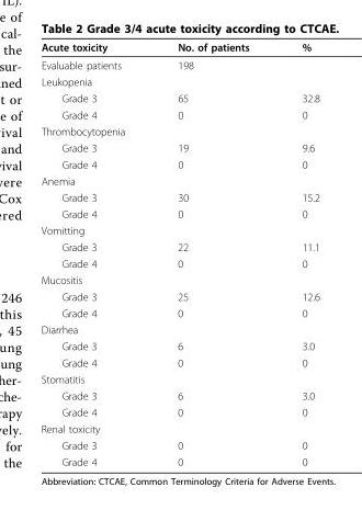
<table><thead><tr><td>Acute toxicity</td><td>No. of patients</td><td>%</td></tr></thead><tbody><tr><td>Evaluable patients</td><td>198</td><td></td></tr><tr><td colspan="3">Leukopenia</td></tr><tr><td>Grade 3</td><td>65</td><td>32.8</td></tr><tr><td>Grade 4</td><td>0</td><td>0</td></tr><tr><td colspan="3">Thrombocytopenia</td></tr><tr><td>Grade 3</td><td>19</td><td>9.6</td></tr><tr><td>Grade 4</td><td>0</td><td>0</td></tr><tr><td colspan="3">Anemia</td></tr><tr><td>Grade 3</td><td>30</td><td>15.2</td></tr><tr><td>Grade 4</td><td>0</td><td>0</td></tr><tr><td colspan="3">Vomitting</td></tr><tr><td>Grade 3</td><td>22</td><td>11.1</td></tr><tr><td>Grade 4</td><td>0</td><td>0</td></tr><tr><td colspan="3">Mucositis</td></tr><tr><td>Grade 3</td><td>25</td><td>12.6</td></tr><tr><td>Grade 4</td><td>0</td><td>0</td></tr><tr><td colspan="3">Diarrhea</td></tr><tr><td>Grade 3</td><td>6</td><td>3.0</td></tr><tr><td>Grade 4</td><td>0</td><td>0</td></tr><tr><td colspan="3">Stomatitis</td></tr><tr><td>Grade 3</td><td>6</td><td>3.0</td></tr><tr><td>Grade 4</td><td>0</td><td>0</td></tr><tr><td colspan="3">Renal toxicity</td></tr><tr><td>Grade 3</td><td>0</td><td>0</td></tr><tr><td>Grade 4</td><td>0</td><td>0</td></tr></tbody></table>